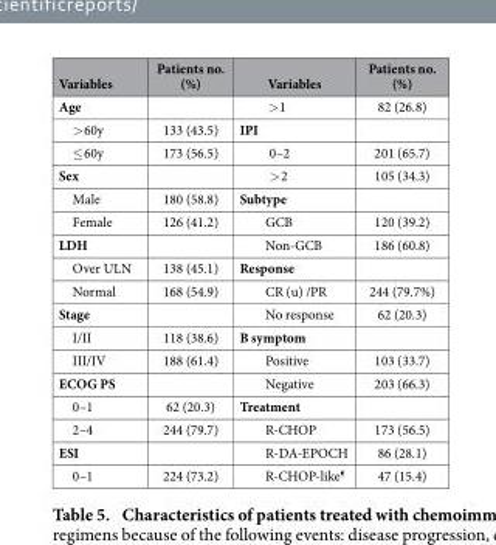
<table><thead><tr><td>Variables</td><td>Patients no. (%)</td><td>Variables</td><td>Patients no. (%)</td></tr></thead><tbody><tr><td>Age</td><td></td><td>&gt; 1</td><td>82 (26.8)</td></tr><tr><td>&gt; 60y</td><td>133 (43.5)</td><td>IPI</td><td></td></tr><tr><td>≤ 60y</td><td>173 (56.5)</td><td>0–2</td><td>201 (65.7)</td></tr><tr><td>Sex</td><td></td><td>&gt; 2</td><td>105 (34.3)</td></tr><tr><td>Male</td><td>180 (58.8)</td><td>Subtype</td><td></td></tr><tr><td>Female</td><td>126 (41.2)</td><td>GCB</td><td>120 (39.2)</td></tr><tr><td>LDH</td><td></td><td>Non-GCB</td><td>186 (60.8)</td></tr><tr><td>Over ULN</td><td>138 (45.1)</td><td>Response</td><td></td></tr><tr><td>Normal</td><td>168 (54.9)</td><td>CR (u) /PR</td><td>244 (79.7%)</td></tr><tr><td>Stage</td><td></td><td>No response</td><td>62 (20.3)</td></tr><tr><td>I/II</td><td>118 (38.6)</td><td>B symptom</td><td></td></tr><tr><td>III/IV</td><td>188 (61.4)</td><td>Positive</td><td>103 (33.7)</td></tr><tr><td>ECOG PS</td><td></td><td>Negative</td><td>203 (66.3)</td></tr><tr><td>0–1</td><td>62 (20.3)</td><td>Treatment</td><td></td></tr><tr><td>2–4</td><td>244 (79.7)</td><td>R-CHOP</td><td>173 (56.5)</td></tr><tr><td>ESI</td><td></td><td>R-DA-EPOCH</td><td>86 (28.1)</td></tr><tr><td>0–1</td><td>224 (73.2)</td><td>R-CHOP-like<sup>¶</sup></td><td>47 (15.4)</td></tr></tbody></table>